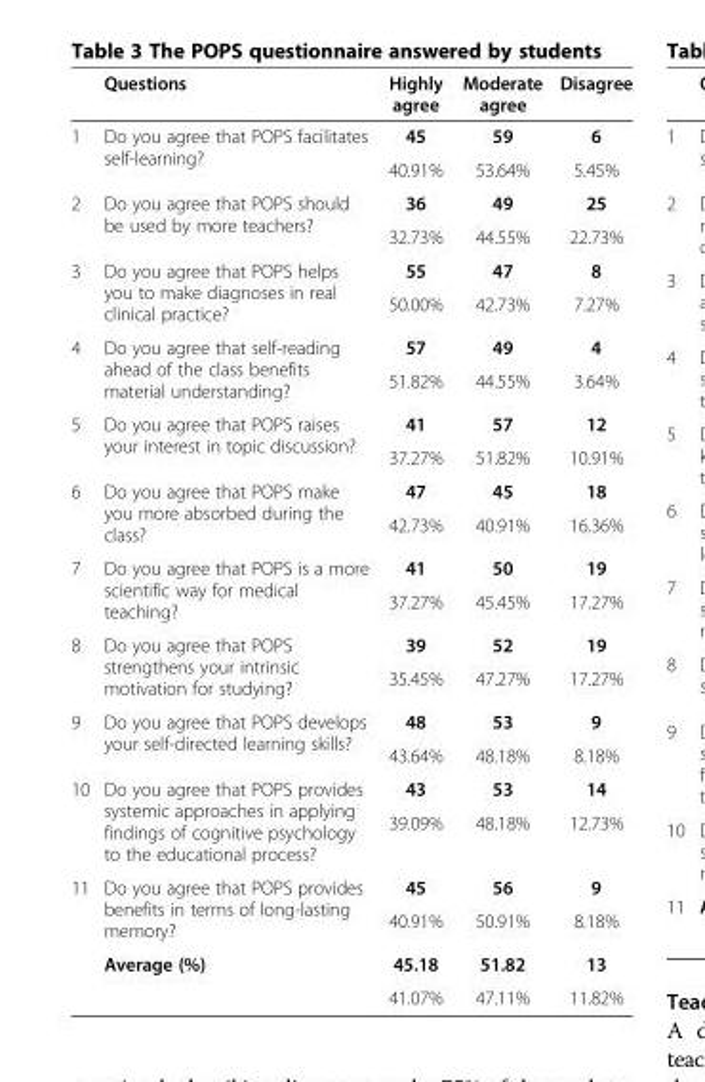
<table><thead><tr><td></td><td>Questions</td><td>Highly agree</td><td>Moderate agree</td><td>Disagree</td></tr></thead><tbody><tr><td rowspan="2">1</td><td rowspan="2">Do you agree that POPS facilitates self-learning?</td><td>45</td><td>59</td><td>6</td></tr><tr><td>40.91%</td><td>53.64%</td><td>5.45%</td></tr><tr><td rowspan="2">2</td><td rowspan="2">Do you agree that POPS should be used by more teachers?</td><td>36</td><td>49</td><td>25</td></tr><tr><td>32.73%</td><td>44.55%</td><td>22.73%</td></tr><tr><td rowspan="2">3</td><td rowspan="2">Do you agree that POPS helps you to make diagnoses in real clinical practice?</td><td>55</td><td>47</td><td>8</td></tr><tr><td>50.00%</td><td>42.73%</td><td>7.27%</td></tr><tr><td rowspan="2">4</td><td rowspan="2">Do you agree that self-reading ahead of the class benefits material understanding?</td><td>57</td><td>49</td><td>4</td></tr><tr><td>51.82%</td><td>44.55%</td><td>3.64%</td></tr><tr><td rowspan="2">5</td><td rowspan="2">Do you agree that POPS raises your interest in topic discussion?</td><td>41</td><td>57</td><td>12</td></tr><tr><td>37.27%</td><td>51.82%</td><td>10.91%</td></tr><tr><td rowspan="2">6</td><td rowspan="2">Do you agree that POPS make you more absorbed during the class?</td><td>47</td><td>45</td><td>18</td></tr><tr><td>42.73%</td><td>40.91%</td><td>16.36%</td></tr><tr><td rowspan="2">7</td><td rowspan="2">Do you agree that POPS is a more scientific way for medical teaching?</td><td>41</td><td>50</td><td>19</td></tr><tr><td>37.27%</td><td>45.45%</td><td>17.27%</td></tr><tr><td rowspan="2">8</td><td rowspan="2">Do you agree that POPS strengthens your intrinsic motivation for studying?</td><td>39</td><td>52</td><td>19</td></tr><tr><td>35.45%</td><td>47.27%</td><td>17.27%</td></tr><tr><td rowspan="2">9</td><td rowspan="2">Do you agree that POPS develops your self-directed learning skills?</td><td>48</td><td>53</td><td>9</td></tr><tr><td>43.64%</td><td>48.18%</td><td>8.18%</td></tr><tr><td rowspan="2">10</td><td rowspan="2">Do you agree that POPS provides systemic approaches in applying findings of cognitive psychology to the educational process?</td><td>43</td><td>53</td><td>14</td></tr><tr><td>39.09%</td><td>48.18%</td><td>12.73%</td></tr><tr><td rowspan="4">11</td><td rowspan="2">Do you agree that POPS provides benefits in terms of long-lasting memory?</td><td>45</td><td>56</td><td>9</td></tr><tr><td>40.91%</td><td>50.91%</td><td>8.18%</td></tr><tr><td>Average (%)</td><td>45.18</td><td>51.82</td><td>13</td></tr><tr><td></td><td>41.07%</td><td>47.11%</td><td>11.82%</td></tr></tbody></table>